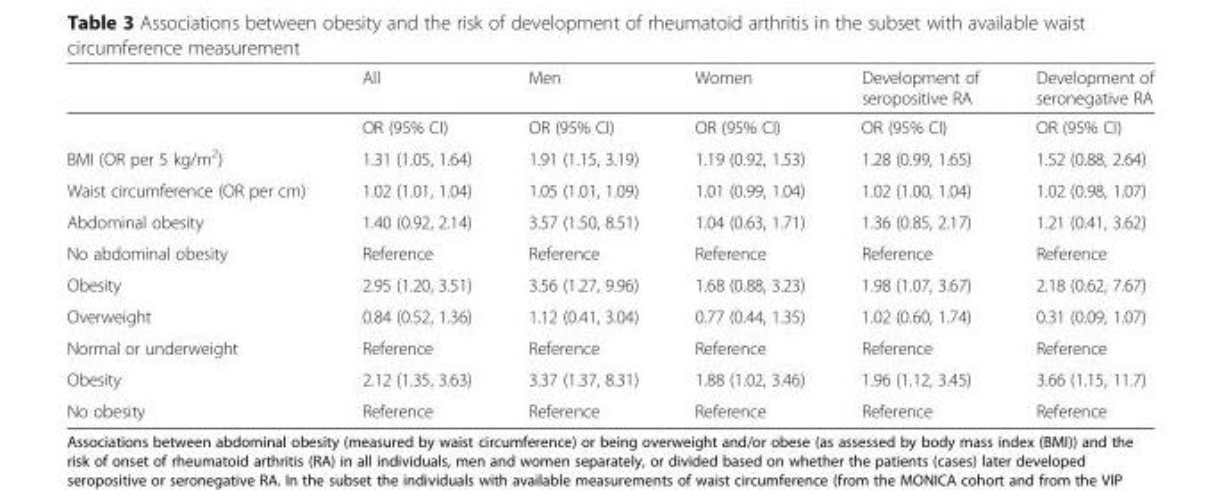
<table><thead><tr><td></td><td>All</td><td>Men</td><td>Women</td><td>Development of seropositive RA</td><td>Development of seronegative RA</td></tr></thead><tbody><tr><td></td><td>OR (95% CI)</td><td>OR (95% CI)</td><td>OR (95% CI)</td><td>OR (95% CI)</td><td>OR (95% CI)</td></tr><tr><td>BMI (OR per 5 kg/m<sup>2</sup>)</td><td>1.31 (1.05, 1.64)</td><td>1.91 (1.15, 3.19)</td><td>1.19 (0.92, 1.53)</td><td>1.28 (0.99, 1.65)</td><td>1.52 (0.88, 2.64)</td></tr><tr><td>Waist circumference (OR per cm)</td><td>1.02 (1.01, 1.04)</td><td>1.05 (1.01, 1.09)</td><td>1.01 (0.99, 1.04)</td><td>1.02 (1.00, 1.04)</td><td>1.02 (0.98, 1.07)</td></tr><tr><td>Abdominal obesity</td><td>1.40 (0.92, 2.14)</td><td>3.57 (1.50, 8.51)</td><td>1.04 (0.63, 1.71)</td><td>1.36 (0.85, 2.17)</td><td>1.21 (0.41, 3.62)</td></tr><tr><td>No abdominal obesity</td><td>Reference</td><td>Reference</td><td>Reference</td><td>Reference</td><td>Reference</td></tr><tr><td>Obesity</td><td>2.95 (1.20, 3.51)</td><td>3.56 (1.27, 9.96)</td><td>1.68 (0.88, 3.23)</td><td>1.98 (1.07, 3.67)</td><td>2.18 (0.62, 7.67)</td></tr><tr><td>Overweight</td><td>0.84 (0.52, 1.36)</td><td>1.12 (0.41, 3.04)</td><td>0.77 (0.44, 1.35)</td><td>1.02 (0.60, 1.74)</td><td>0.31 (0.09, 1.07)</td></tr><tr><td>Normal or underweight</td><td>Reference</td><td>Reference</td><td>Reference</td><td>Reference</td><td>Reference</td></tr><tr><td>Obesity</td><td>2.12 (1.35, 3.63)</td><td>3.37 (1.37, 8.31)</td><td>1.88 (1.02, 3.46)</td><td>1.96 (1.12, 3.45)</td><td>3.66 (1.15, 11.7)</td></tr><tr><td>No obesity</td><td>Reference</td><td>Reference</td><td>Reference</td><td>Reference</td><td>Reference</td></tr></tbody></table>